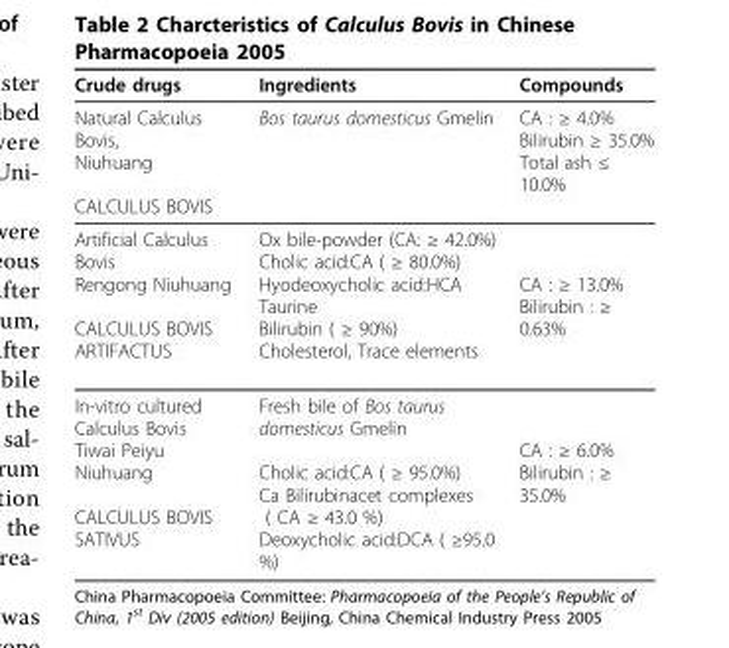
<table><thead><tr><td>Crude drugs</td><td>Ingredients</td><td>Compounds</td></tr></thead><tbody><tr><td>Natural Calculus Bovis, Niuhuang CALCULUS BOVIS</td><td>Bos taurus domesticus Gmelin</td><td>CA : ≥ 4.0% Bilirubin ≥ 35.0% Total ash ≤ 10.0%</td></tr><tr><td>Artificial Calculus Bovis Rengong Niuhuang CALCULUS BOVIS ARTIFACTUS</td><td>Ox bile-powder (CA: ≥ 42.0%) Cholic acid:CA ( ≥ 80.0%) Hyodeoxycholic acid:HCA Taurine Bilirubin ( ≥ 90%) Cholesterol, Trace elements</td><td>CA : ≥ 13.0% Bilirubin : ≥ 0.63%</td></tr><tr><td>In-vitro cultured Calculus Bovis Tiwai Peiyu Niuhuang CALCULUS BOVIS SATIVUS</td><td>Fresh bile of Bos taurus domesticus Gmelin Cholic acid:CA ( ≥ 95.0%) Ca Bilirubinacet complexes ( CA ≥ 43.0 %) Deoxycholic acid:DCA ( ≥95.0 %)</td><td>CA : ≥ 6.0% Bilirubin : ≥ 35.0%</td></tr></tbody></table>